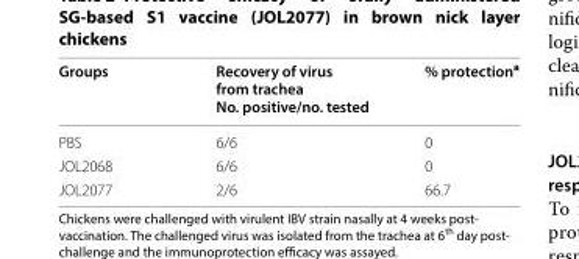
<table><thead><tr><td>Groups</td><td>Recovery of virus from trachea No. positive/no. tested</td><td>% protection<sup>a</sup></td></tr></thead><tbody><tr><td>PBS</td><td>6/6</td><td>0</td></tr><tr><td>JOL2068</td><td>6/6</td><td>0</td></tr><tr><td>JOL2077</td><td>2/6</td><td>66.7</td></tr></tbody></table>